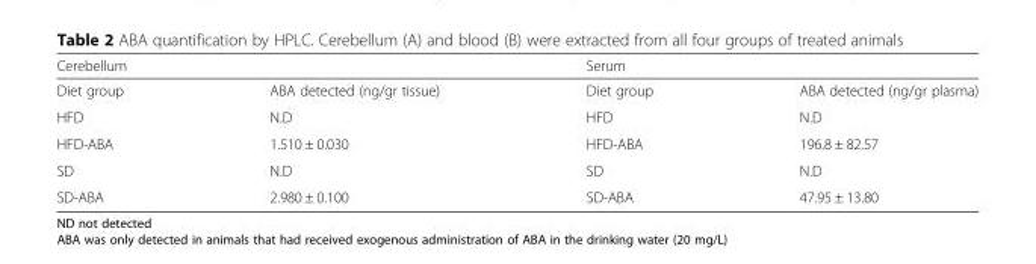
<table><thead><tr><td colspan="2">Cerebellum</td><td colspan="2">Serum</td></tr><tr><td>Diet group</td><td>ABA detected (ng/gr tissue)</td><td>Diet group</td><td>ABA detected (ng/gr plasma)</td></tr></thead><tbody><tr><td>HFD</td><td>N.D</td><td>HFD</td><td>N.D</td></tr><tr><td>HFD-ABA</td><td>1.510 ± 0.030</td><td>HFD-ABA</td><td>196.8 ± 82.57</td></tr><tr><td>SD</td><td>N.D</td><td>SD</td><td>N.D</td></tr><tr><td>SD-ABA</td><td>2.980 ± 0.100</td><td>SD-ABA</td><td>47.95 ± 13.80</td></tr></tbody></table>